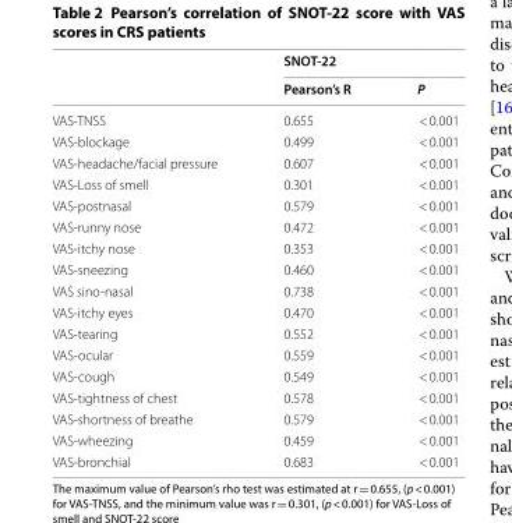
<table><thead><tr><td rowspan="2"></td><td colspan="2">SNOT-22</td></tr><tr><td>Pearson’s R</td><td>P</td></tr></thead><tbody><tr><td>VAS-TNSS</td><td>0.655</td><td>&lt; 0.001</td></tr><tr><td>VAS-blockage</td><td>0.499</td><td>&lt; 0.001</td></tr><tr><td>VAS-headache/facial pressure</td><td>0.607</td><td>&lt; 0.001</td></tr><tr><td>VAS-Loss of smell</td><td>0.301</td><td>&lt; 0.001</td></tr><tr><td>VAS-postnasal</td><td>0.579</td><td>&lt; 0.001</td></tr><tr><td>VAS-runny nose</td><td>0.472</td><td>&lt; 0.001</td></tr><tr><td>VAS-itchy nose</td><td>0.353</td><td>&lt; 0.001</td></tr><tr><td>VAS-sneezing</td><td>0.460</td><td>&lt; 0.001</td></tr><tr><td>VAS sino-nasal</td><td>0.738</td><td>&lt; 0.001</td></tr><tr><td>VAS-itchy eyes</td><td>0.470</td><td>&lt; 0.001</td></tr><tr><td>VAS-tearing</td><td>0.552</td><td>&lt; 0.001</td></tr><tr><td>VAS-ocular</td><td>0.559</td><td>&lt; 0.001</td></tr><tr><td>VAS-cough</td><td>0.549</td><td>&lt; 0.001</td></tr><tr><td>VAS-tightness of chest</td><td>0.578</td><td>&lt; 0.001</td></tr><tr><td>VAS-shortness of breathe</td><td>0.579</td><td>&lt; 0.001</td></tr><tr><td>VAS-wheezing</td><td>0.459</td><td>&lt; 0.001</td></tr><tr><td>VAS-bronchial</td><td>0.683</td><td>&lt; 0.001</td></tr></tbody></table>